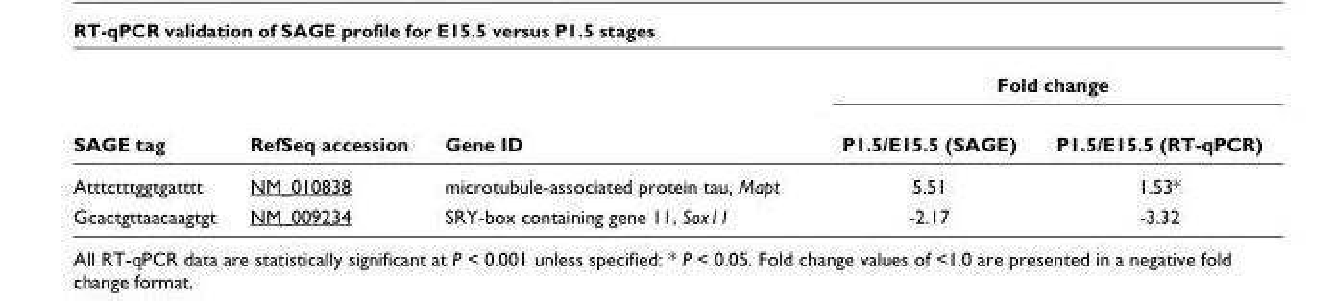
<table><thead><tr><td rowspan="2">SAGE tag</td><td rowspan="2">RefSeq accession</td><td rowspan="2">Gene ID</td><td colspan="2">Fold change</td></tr><tr><td>P1.5/E15.5 (SAGE)</td><td>P1.5/E15.5 (RT-qPCR)</td></tr></thead><tbody><tr><td>Atttctttggtgatttt</td><td>NM_010838</td><td>microtubule-associated protein tau, Mapt</td><td>5.51</td><td>1.53*</td></tr><tr><td>Gcactgttaacaagtgt</td><td>NM_009234</td><td>SRY-box containing gene 11, Sox11</td><td>-2.17</td><td>-3.32</td></tr></tbody></table>